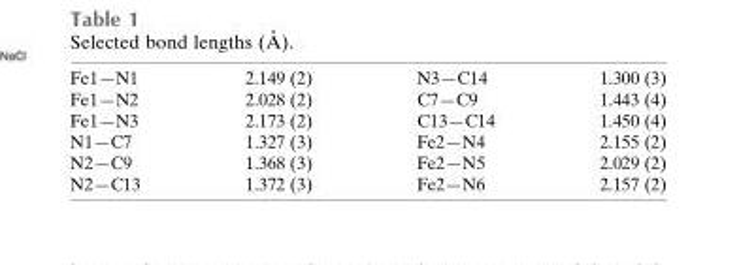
<table><tbody><tr><td>Fe1—N1</td><td>2.149 (2)</td><td>N3—C14</td><td>1.300 (3)</td></tr><tr><td>Fe1—N2</td><td>2.028 (2)</td><td>C7—C9</td><td>1.443 (4)</td></tr><tr><td>Fe1—N3</td><td>2.173 (2)</td><td>C13—C14</td><td>1.450 (4)</td></tr><tr><td>N1—C7</td><td>1.327 (3)</td><td>Fe2—N4</td><td>2.155 (2)</td></tr><tr><td>N2—C9</td><td>1.368 (3)</td><td>Fe2—N5</td><td>2.029 (2)</td></tr><tr><td>N2—C13</td><td>1.372 (3)</td><td>Fe2—N6</td><td>2.157 (2)</td></tr></tbody></table>